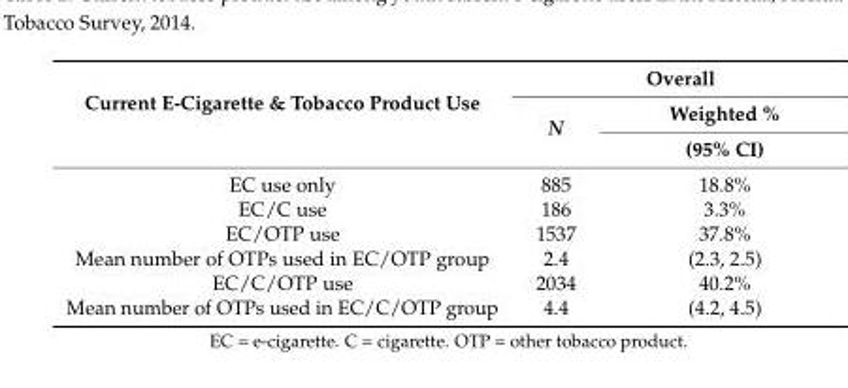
<table><thead><tr><td rowspan="3">Current E-Cigarette &amp; Tobacco Product Use</td><td colspan="2">Overall</td></tr><tr><td rowspan="2">N</td><td rowspan="2">Weighted % (95% CI)</td></tr><tr></tr></thead><tbody><tr><td>EC use only</td><td>885</td><td>18.8%</td></tr><tr><td>EC/C use</td><td>186</td><td>3.3%</td></tr><tr><td>EC/OTP use</td><td>1537</td><td>37.8%</td></tr><tr><td>Mean number of OTPs used in EC/OTP group</td><td>2.4</td><td>(2.3, 2.5)</td></tr><tr><td>EC/C/OTP use</td><td>2034</td><td>40.2%</td></tr><tr><td>Mean number of OTPs used in EC/C/OTP group</td><td>4.4</td><td>(4.2, 4.5)</td></tr></tbody></table>